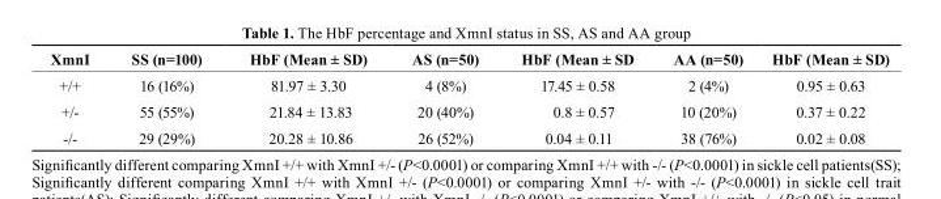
<table><thead><tr><td>XmnI</td><td>SS (n=100)</td><td>HbF (Mean ± SD)</td><td>AS (n=50)</td><td>HbF (Mean ± SD</td><td>AA (n=50)</td><td>HbF (Mean ± SD)</td></tr></thead><tbody><tr><td>+/+</td><td>16 (16%)</td><td>81.97 ± 3.30</td><td>4 (8%)</td><td>17.45 ± 0.58</td><td>2 (4%)</td><td>0.95 ± 0.63</td></tr><tr><td>+/-</td><td>55 (55%)</td><td>21.84 ± 13.83</td><td>20 (40%)</td><td>0.8 ± 0.57</td><td>10 (20%)</td><td>0.37 ± 0.22</td></tr><tr><td>-/-</td><td>29 (29%)</td><td>20.28 ± 10.86</td><td>26 (52%)</td><td>0.04 ± 0.11</td><td>38 (76%)</td><td>0.02 ± 0.08</td></tr></tbody></table>